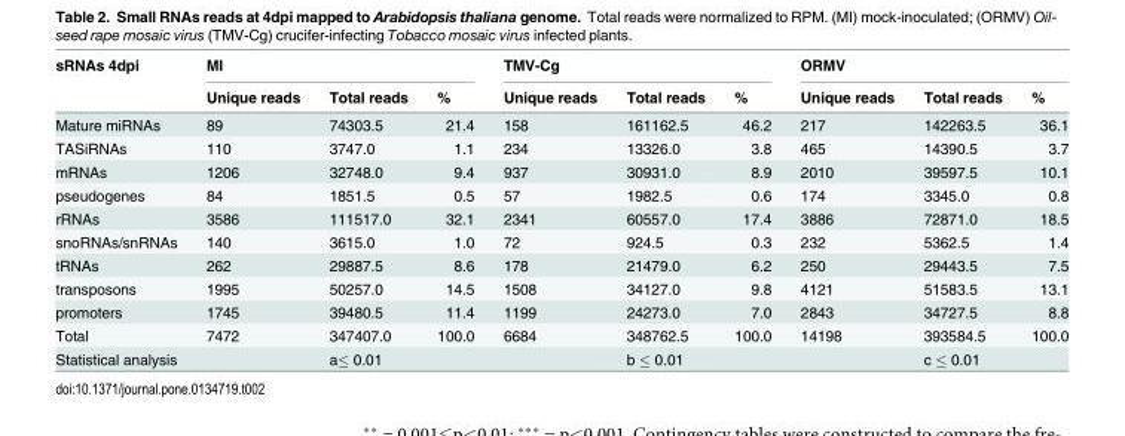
<table><thead><tr><td rowspan="2">sRNAs 4dpi</td><td colspan="3">MI</td><td colspan="3">TMV-Cg</td><td colspan="3">ORMV</td></tr><tr><td>Unique reads</td><td>Total reads</td><td>%</td><td>Unique reads</td><td>Total reads</td><td>%</td><td>Unique reads</td><td>Total reads</td><td>%</td></tr></thead><tbody><tr><td>Mature miRNAs</td><td>89</td><td>74303.5</td><td>21.4</td><td>158</td><td>161162.5</td><td>46.2</td><td>217</td><td>142263.5</td><td>36.1</td></tr><tr><td>TASiRNAs</td><td>110</td><td>3747.0</td><td>1.1</td><td>234</td><td>13326.0</td><td>3.8</td><td>465</td><td>14390.5</td><td>3.7</td></tr><tr><td>mRNAs</td><td>1206</td><td>32748.0</td><td>9.4</td><td>937</td><td>30931.0</td><td>8.9</td><td>2010</td><td>39597.5</td><td>10.1</td></tr><tr><td>pseudogenes</td><td>84</td><td>1851.5</td><td>0.5</td><td>57</td><td>1982.5</td><td>0.6</td><td>174</td><td>3345.0</td><td>0.8</td></tr><tr><td>rRNAs</td><td>3586</td><td>111517.0</td><td>32.1</td><td>2341</td><td>60557.0</td><td>17.4</td><td>3886</td><td>72871.0</td><td>18.5</td></tr><tr><td>snoRNAs/snRNAs</td><td>140</td><td>3615.0</td><td>1.0</td><td>72</td><td>924.5</td><td>0.3</td><td>232</td><td>5362.5</td><td>1.4</td></tr><tr><td>tRNAs</td><td>262</td><td>29887.5</td><td>8.6</td><td>178</td><td>21479.0</td><td>6.2</td><td>250</td><td>29443.5</td><td>7.5</td></tr><tr><td>transposons</td><td>1995</td><td>50257.0</td><td>14.5</td><td>1508</td><td>34127.0</td><td>9.8</td><td>4121</td><td>51583.5</td><td>13.1</td></tr><tr><td>promoters</td><td>1745</td><td>39480.5</td><td>11.4</td><td>1199</td><td>24273.0</td><td>7.0</td><td>2843</td><td>34727.5</td><td>8.8</td></tr><tr><td>Total</td><td>7472</td><td>347407.0</td><td>100.0</td><td>6684</td><td>348762.5</td><td>100.0</td><td>14198</td><td>393584.5</td><td>100.0</td></tr><tr><td>Statistical analysis</td><td></td><td>a≤ 0.01</td><td></td><td></td><td>b ≤ 0.01</td><td></td><td></td><td>c ≤ 0.01</td><td></td></tr></tbody></table>